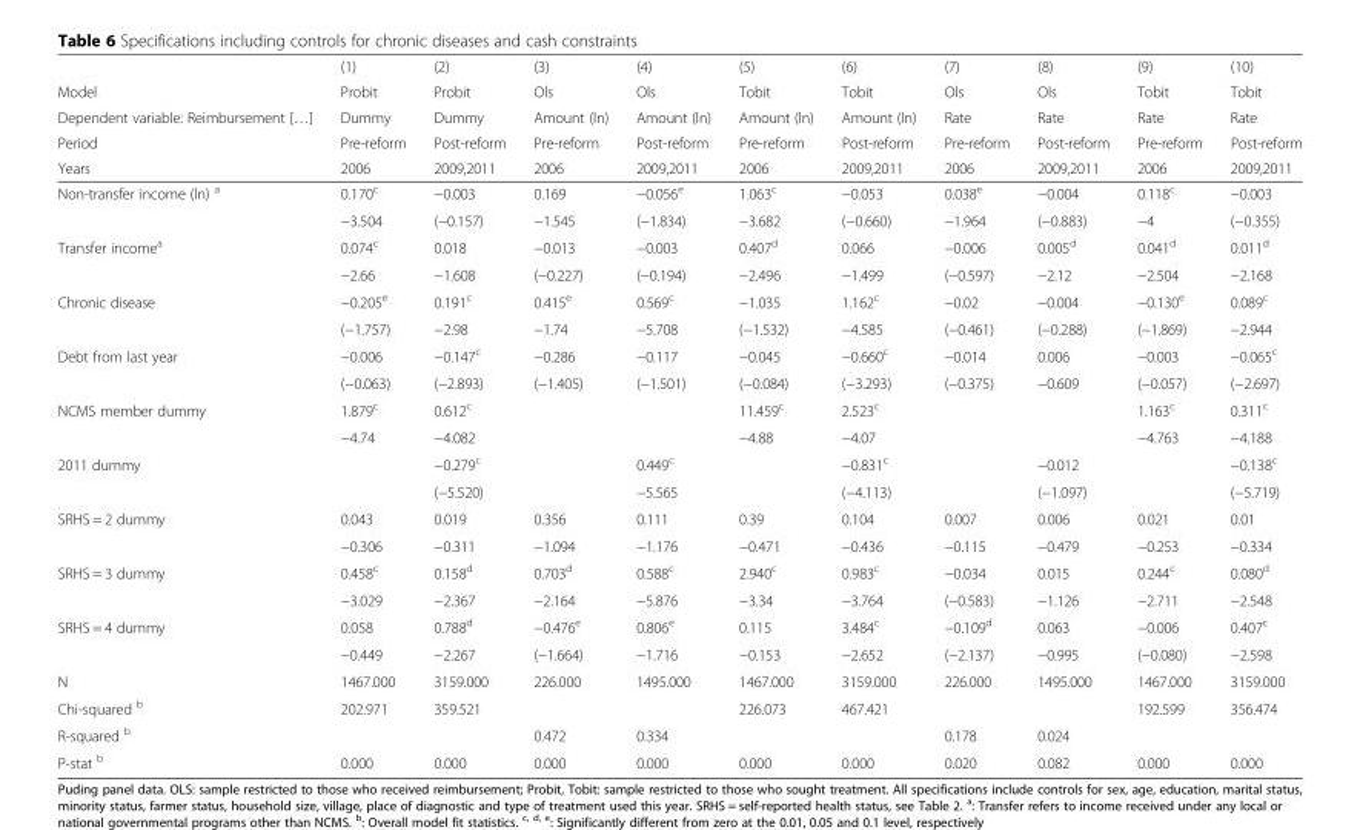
<table><thead><tr><td rowspan="5">Model Dependent variable: Reimbursement […] Period Years</td><td rowspan="5">(1) Probit Dummy Pre-reform 2006</td><td rowspan="5">(2) Probit Dummy Post-reform 2009,2011</td><td rowspan="5">(3) Ols Amount (ln) Pre-reform 2006</td><td rowspan="5">(4) Ols Amount (ln) Post-reform 2009,2011</td><td rowspan="5">(5) Tobit Amount (ln) Pre-reform 2006</td><td rowspan="5">(6) Tobit Amount (ln) Post-reform 2009,2011</td><td rowspan="5">(7) Ols Rate Pre-reform 2006</td><td rowspan="5">(8) Ols Rate Post-reform 2009,2011</td><td rowspan="5">(9) Tobit Rate Pre-reform 2006</td><td rowspan="5">(10) Tobit Rate Post-reform 2009,2011</td></tr><tr></tr><tr></tr><tr></tr><tr></tr></thead><tbody><tr><td rowspan="2">Non-transfer income (ln) <sup>a</sup></td><td>0.170<sup>c</sup></td><td>−0.003</td><td>0.169</td><td>−0.056<sup>e</sup></td><td>1.063<sup>c</sup></td><td>−0.053</td><td>0.038<sup>e</sup></td><td>−0.004</td><td>0.118<sup>c</sup></td><td>−0.003</td></tr><tr><td>−3.504</td><td>(−0.157)</td><td>−1.545</td><td>(−1.834)</td><td>−3.682</td><td>(−0.660)</td><td>−1.964</td><td>(−0.883)</td><td>−4</td><td>(−0.355)</td></tr><tr><td rowspan="2">Transfer income<sup>a</sup></td><td>0.074<sup>c</sup></td><td>0.018</td><td>−0.013</td><td>−0.003</td><td>0.407<sup>d</sup></td><td>0.066</td><td>−0.006</td><td>0.005<sup>d</sup></td><td>0.041<sup>d</sup></td><td>0.011<sup>d</sup></td></tr><tr><td>−2.66</td><td>−1.608</td><td>(−0.227)</td><td>(−0.194)</td><td>−2.496</td><td>−1.499</td><td>(−0.597)</td><td>−2.12</td><td>−2.504</td><td>−2.168</td></tr><tr><td rowspan="2">Chronic disease</td><td>−0.205<sup>e</sup></td><td>0.191<sup>c</sup></td><td>0.415<sup>e</sup></td><td>0.569<sup>c</sup></td><td>−1.035</td><td>1.162<sup>c</sup></td><td>−0.02</td><td>−0.004</td><td>−0.130<sup>e</sup></td><td>0.089<sup>c</sup></td></tr><tr><td>(−1.757)</td><td>−2.98</td><td>−1.74</td><td>−5.708</td><td>(−1.532)</td><td>−4.585</td><td>(−0.461)</td><td>(−0.288)</td><td>(−1.869)</td><td>−2.944</td></tr><tr><td rowspan="2">Debt from last year</td><td>−0.006</td><td>−0.147<sup>c</sup></td><td>−0.286</td><td>−0.117</td><td>−0.045</td><td>−0.660<sup>c</sup></td><td>−0.014</td><td>0.006</td><td>−0.003</td><td>−0.065<sup>c</sup></td></tr><tr><td>(−0.063)</td><td>(−2.893)</td><td>(−1.405)</td><td>(−1.501)</td><td>(−0.084)</td><td>(−3.293)</td><td>(−0.375)</td><td>−0.609</td><td>(−0.057)</td><td>(−2.697)</td></tr><tr><td rowspan="2">NCMS member dummy</td><td>1.879<sup>c</sup></td><td>0.612<sup>c</sup></td><td></td><td></td><td>11.459<sup>c</sup></td><td>2.523<sup>c</sup></td><td></td><td></td><td>1.163<sup>c</sup></td><td>0.311<sup>c</sup></td></tr><tr><td>−4.74</td><td>−4.082</td><td></td><td></td><td>−4.88</td><td>−4.07</td><td></td><td></td><td>−4.763</td><td>−4.188</td></tr><tr><td rowspan="2">2011 dummy</td><td></td><td>−0.279<sup>c</sup></td><td></td><td>0.449<sup>c</sup></td><td></td><td>−0.831<sup>c</sup></td><td></td><td>−0.012</td><td></td><td>−0.138<sup>c</sup></td></tr><tr><td></td><td>(−5.520)</td><td></td><td>−5.565</td><td></td><td>(−4.113)</td><td></td><td>(−1.097)</td><td></td><td>(−5.719)</td></tr><tr><td rowspan="2">SRHS = 2 dummy</td><td>0.043</td><td>0.019</td><td>0.356</td><td>0.111</td><td>0.39</td><td>0.104</td><td>0.007</td><td>0.006</td><td>0.021</td><td>0.01</td></tr><tr><td>−0.306</td><td>−0.311</td><td>−1.094</td><td>−1.176</td><td>−0.471</td><td>−0.436</td><td>−0.115</td><td>−0.479</td><td>−0.253</td><td>−0.334</td></tr><tr><td rowspan="2">SRHS = 3 dummy</td><td>0.458<sup>c</sup></td><td>0.158<sup>d</sup></td><td>0.703<sup>d</sup></td><td>0.588<sup>c</sup></td><td>2.940<sup>c</sup></td><td>0.983<sup>c</sup></td><td>−0.034</td><td>0.015</td><td>0.244<sup>c</sup></td><td>0.080<sup>d</sup></td></tr><tr><td>−3.029</td><td>−2.367</td><td>−2.164</td><td>−5.876</td><td>−3.34</td><td>−3.764</td><td>(−0.583)</td><td>−1.126</td><td>−2.711</td><td>−2.548</td></tr><tr><td rowspan="2">SRHS = 4 dummy</td><td>0.058</td><td>0.788<sup>d</sup></td><td>−0.476<sup>e</sup></td><td>0.806<sup>e</sup></td><td>0.115</td><td>3.484<sup>c</sup></td><td>−0.109<sup>d</sup></td><td>0.063</td><td>−0.006</td><td>0.407<sup>c</sup></td></tr><tr><td>−0.449</td><td>−2.267</td><td>(−1.664)</td><td>−1.716</td><td>−0.153</td><td>−2.652</td><td>(−2.137)</td><td>−0.995</td><td>(−0.080)</td><td>−2.598</td></tr><tr><td>N</td><td>1467.000</td><td>3159.000</td><td>226.000</td><td>1495.000</td><td>1467.000</td><td>3159.000</td><td>226.000</td><td>1495.000</td><td>1467.000</td><td>3159.000</td></tr><tr><td>Chi-squared <sup>b</sup></td><td>202.971</td><td>359.521</td><td></td><td></td><td>226.073</td><td>467.421</td><td></td><td></td><td>192.599</td><td>356.474</td></tr><tr><td>R-squared <sup>b</sup></td><td></td><td></td><td>0.472</td><td>0.334</td><td></td><td></td><td>0.178</td><td>0.024</td><td></td><td></td></tr><tr><td>P-stat <sup>b</sup></td><td>0.000</td><td>0.000</td><td>0.000</td><td>0.000</td><td>0.000</td><td>0.000</td><td>0.020</td><td>0.082</td><td>0.000</td><td>0.000</td></tr></tbody></table>